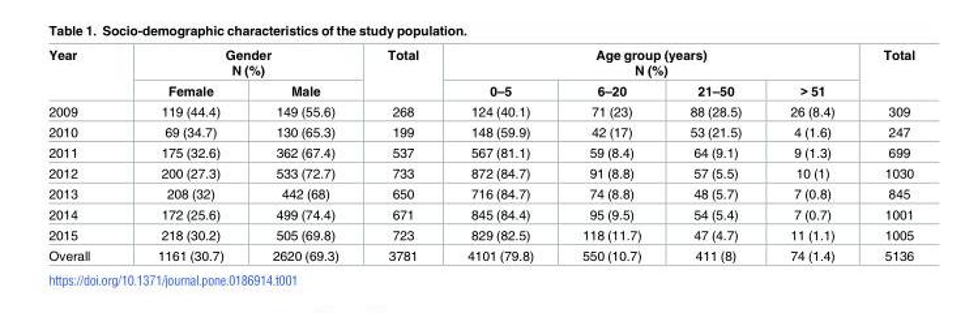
<table><thead><tr><td rowspan="2">Year</td><td colspan="2">Gender N (%)</td><td rowspan="2">Total</td><td colspan="4">Age group (years) N (%)</td><td rowspan="2">Total</td></tr><tr><td>Female</td><td>Male</td><td>0–5</td><td>6–20</td><td>21–50</td><td>&gt; 51</td></tr></thead><tbody><tr><td>2009</td><td>119 (44.4)</td><td>149 (55.6)</td><td>268</td><td>124 (40.1)</td><td>71 (23)</td><td>88 (28.5)</td><td>26 (8.4)</td><td>309</td></tr><tr><td>2010</td><td>69 (34.7)</td><td>130 (65.3)</td><td>199</td><td>148 (59.9)</td><td>42 (17)</td><td>53 (21.5)</td><td>4 (1.6)</td><td>247</td></tr><tr><td>2011</td><td>175 (32.6)</td><td>362 (67.4)</td><td>537</td><td>567 (81.1)</td><td>59 (8.4)</td><td>64 (9.1)</td><td>9 (1.3)</td><td>699</td></tr><tr><td>2012</td><td>200 (27.3)</td><td>533 (72.7)</td><td>733</td><td>872 (84.7)</td><td>91 (8.8)</td><td>57 (5.5)</td><td>10 (1)</td><td>1030</td></tr><tr><td>2013</td><td>208 (32)</td><td>442 (68)</td><td>650</td><td>716 (84.7)</td><td>74 (8.8)</td><td>48 (5.7)</td><td>7 (0.8)</td><td>845</td></tr><tr><td>2014</td><td>172 (25.6)</td><td>499 (74.4)</td><td>671</td><td>845 (84.4)</td><td>95 (9.5)</td><td>54 (5.4)</td><td>7 (0.7)</td><td>1001</td></tr><tr><td>2015</td><td>218 (30.2)</td><td>505 (69.8)</td><td>723</td><td>829 (82.5)</td><td>118 (11.7)</td><td>47 (4.7)</td><td>11 (1.1)</td><td>1005</td></tr><tr><td>Overall</td><td>1161 (30.7)</td><td>2620 (69.3)</td><td>3781</td><td>4101 (79.8)</td><td>550 (10.7)</td><td>411 (8)</td><td>74 (1.4)</td><td>5136</td></tr></tbody></table>